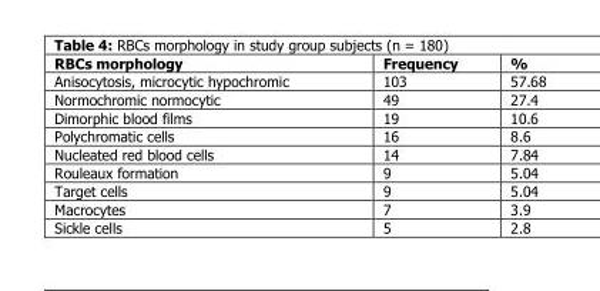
<table><thead><tr><td>RBCs morphology</td><td>Frequency</td><td>%</td></tr></thead><tbody><tr><td>Anisocytosis, microcytic hypochromic</td><td>103</td><td>57.68</td></tr><tr><td>Normochromic normocytic</td><td>49</td><td>27.4</td></tr><tr><td>Dimorphic blood films</td><td>19</td><td>10.6</td></tr><tr><td>Polychromatic cells</td><td>16</td><td>8.6</td></tr><tr><td>Nucleated red blood cells</td><td>14</td><td>7.84</td></tr><tr><td>Rouleaux formation</td><td>9</td><td>5.04</td></tr><tr><td>Target cells</td><td>9</td><td>5.04</td></tr><tr><td>Macrocytes</td><td>7</td><td>3.9</td></tr><tr><td>Sickle cells</td><td>5</td><td>2.8</td></tr></tbody></table>